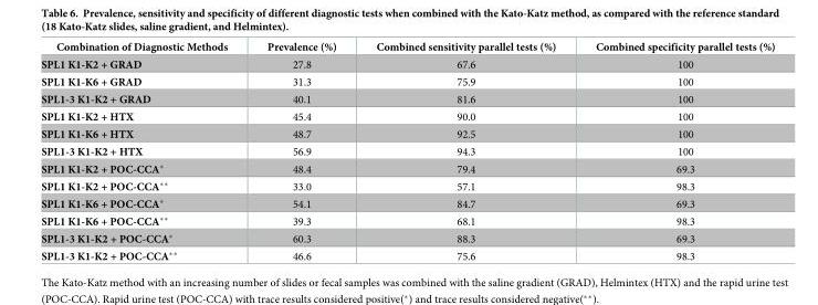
<table><thead><tr><td>Combination of Diagnostic Methods</td><td>Prevalence (%)</td><td>Combined sensitivity parallel tests (%)</td><td>Combined specificity parallel tests (%)</td></tr></thead><tbody><tr><td>SPL1 K1-K2 + GRAD</td><td>27.8</td><td>67.6</td><td>100</td></tr><tr><td>SPL1 K1-K6 + GRAD</td><td>31.3</td><td>75.9</td><td>100</td></tr><tr><td>SPL1-3 K1-K2 + GRAD</td><td>40.1</td><td>81.6</td><td>100</td></tr><tr><td>SPL1 K1-K2 + HTX</td><td>45.4</td><td>90.0</td><td>100</td></tr><tr><td>SPL1 K1-K6 + HTX</td><td>48.7</td><td>92.5</td><td>100</td></tr><tr><td>SPL1-3 K1-K2 + HTX</td><td>56.9</td><td>94.3</td><td>100</td></tr><tr><td>SPL1 K1-K2 + POC-CCA*</td><td>48.4</td><td>79.4</td><td>69.3</td></tr><tr><td>SPL1 K1-K2 + POC-CCA**</td><td>33.0</td><td>57.1</td><td>98.3</td></tr><tr><td>SPL1 K1-K6 + POC-CCA*</td><td>54.1</td><td>84.7</td><td>69.3</td></tr><tr><td>SPL1 K1-K6 + POC-CCA**</td><td>39.3</td><td>68.1</td><td>98.3</td></tr><tr><td>SPL1-3 K1-K2 + POC-CCA*</td><td>60.3</td><td>88.3</td><td>69.3</td></tr><tr><td>SPL1-3 K1-K2 + POC-CCA**</td><td>46.6</td><td>75.6</td><td>98.3</td></tr></tbody></table>